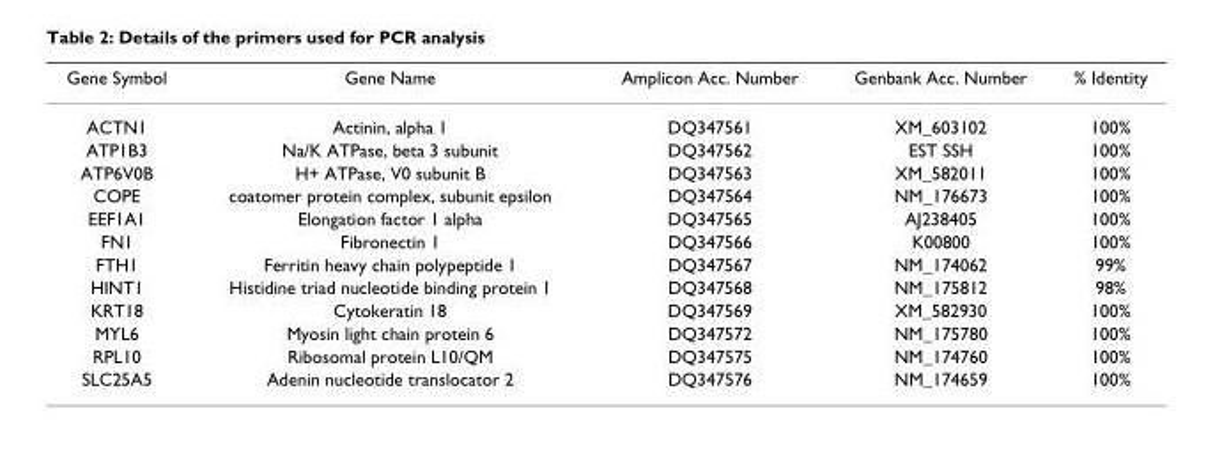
<table><thead><tr><td>Gene Symbol</td><td>Gene Name</td><td>Amplicon Acc. Number</td><td>Genbank Acc. Number</td><td>% Identity</td></tr></thead><tbody><tr><td>ACTN1</td><td>Actinin, alpha 1</td><td>DQ347561</td><td>XM_603102</td><td>100%</td></tr><tr><td>ATP1B3</td><td>Na/K ATPase, beta 3 subunit</td><td>DQ347562</td><td>EST SSH</td><td>100%</td></tr><tr><td>ATP6V0B</td><td>H+ ATPase, V0 subunit B</td><td>DQ347563</td><td>XM_582011</td><td>100%</td></tr><tr><td>COPE</td><td>coatomer protein complex, subunit epsilon</td><td>DQ347564</td><td>NM_176673</td><td>100%</td></tr><tr><td>EEF1A1</td><td>Elongation factor 1 alpha</td><td>DQ347565</td><td>AJ238405</td><td>100%</td></tr><tr><td>FN1</td><td>Fibronectin 1</td><td>DQ347566</td><td>K00800</td><td>100%</td></tr><tr><td>FTH1</td><td>Ferritin heavy chain polypeptide 1</td><td>DQ347567</td><td>NM_174062</td><td>99%</td></tr><tr><td>HINT1</td><td>Histidine triad nucleotide binding protein 1</td><td>DQ347568</td><td>NM_175812</td><td>98%</td></tr><tr><td>KRT18</td><td>Cytokeratin 18</td><td>DQ347569</td><td>XM_582930</td><td>100%</td></tr><tr><td>MYL6</td><td>Myosin light chain protein 6</td><td>DQ347572</td><td>NM_175780</td><td>100%</td></tr><tr><td>RPL10</td><td>Ribosomal protein L10/QM</td><td>DQ347575</td><td>NM_174760</td><td>100%</td></tr><tr><td>SLC25A5</td><td>Adenin nucleotide translocator 2</td><td>DQ347576</td><td>NM_174659</td><td>100%</td></tr></tbody></table>